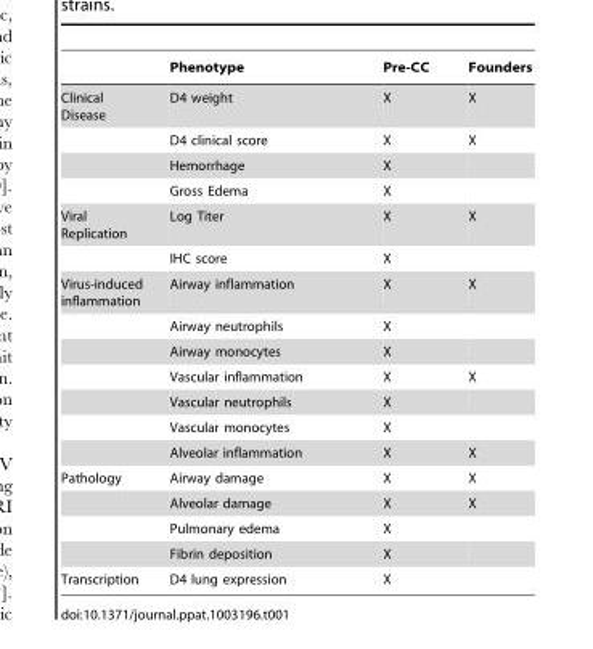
<table><thead><tr><td></td><td>Phenotype</td><td>Pre-CC</td><td>Founders</td></tr></thead><tbody><tr><td rowspan="4">Clinical Disease</td><td>D4 weight</td><td>X</td><td>X</td></tr><tr><td>D4 clinical score</td><td>X</td><td>X</td></tr><tr><td>Hemorrhage</td><td>X</td><td></td></tr><tr><td>Gross Edema</td><td>X</td><td></td></tr><tr><td rowspan="2">Viral Replication</td><td>Log Titer</td><td>X</td><td>X</td></tr><tr><td>IHC score</td><td>X</td><td></td></tr><tr><td rowspan="7">Virus-induced inflammation</td><td>Airway inflammation</td><td>X</td><td>X</td></tr><tr><td>Airway neutrophils</td><td>X</td><td></td></tr><tr><td>Airway monocytes</td><td>X</td><td></td></tr><tr><td>Vascular inflammation</td><td>X</td><td>X</td></tr><tr><td>Vascular neutrophils</td><td>X</td><td></td></tr><tr><td>Vascular monocytes</td><td>X</td><td></td></tr><tr><td>Alveolar inflammation</td><td>X</td><td>X</td></tr><tr><td rowspan="4">Pathology</td><td>Airway damage</td><td>X</td><td>X</td></tr><tr><td>Alveolar damage</td><td>X</td><td>X</td></tr><tr><td>Pulmonary edema</td><td>X</td><td></td></tr><tr><td>Fibrin deposition</td><td>X</td><td></td></tr><tr><td>Transcription</td><td>D4 lung expression</td><td>X</td><td></td></tr></tbody></table>